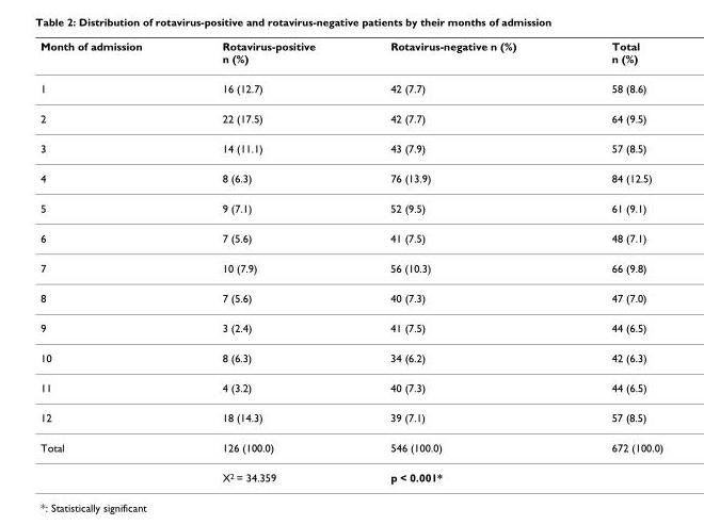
<table><thead><tr><td>Month of admission</td><td>Rotavirus-positive n (%)</td><td>Rotavirus-negative n (%)</td><td>Total n (%)</td></tr></thead><tbody><tr><td>1</td><td>16 (12.7)</td><td>42 (7.7)</td><td>58 (8.6)</td></tr><tr><td>2</td><td>22 (17.5)</td><td>42 (7.7)</td><td>64 (9.5)</td></tr><tr><td>3</td><td>14 (11.1)</td><td>43 (7.9)</td><td>57 (8.5)</td></tr><tr><td>4</td><td>8 (6.3)</td><td>76 (13.9)</td><td>84 (12.5)</td></tr><tr><td>5</td><td>9 (7.1)</td><td>52 (9.5)</td><td>61 (9.1)</td></tr><tr><td>6</td><td>7 (5.6)</td><td>41 (7.5)</td><td>48 (7.1)</td></tr><tr><td>7</td><td>10 (7.9)</td><td>56 (10.3)</td><td>66 (9.8)</td></tr><tr><td>8</td><td>7 (5.6)</td><td>40 (7.3)</td><td>47 (7.0)</td></tr><tr><td>9</td><td>3 (2.4)</td><td>41 (7.5)</td><td>44 (6.5)</td></tr><tr><td>10</td><td>8 (6.3)</td><td>34 (6.2)</td><td>42 (6.3)</td></tr><tr><td>11</td><td>4 (3.2)</td><td>40 (7.3)</td><td>44 (6.5)</td></tr><tr><td>12</td><td>18 (14.3)</td><td>39 (7.1)</td><td>57 (8.5)</td></tr><tr><td rowspan="2">Total</td><td>126 (100.0)</td><td>546 (100.0)</td><td>672 (100.0)</td></tr><tr><td>X<sup>2</sup> = 34.359</td><td>p &lt; 0.001*</td><td></td></tr></tbody></table>